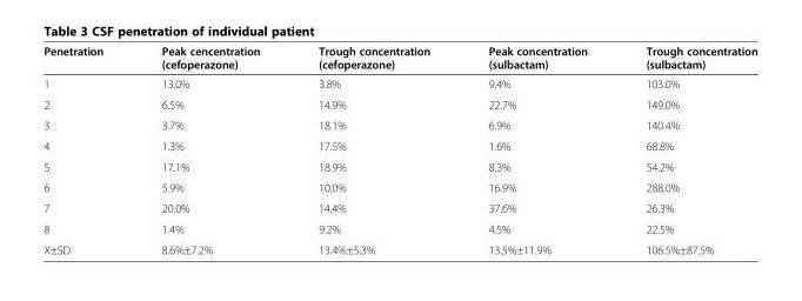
<table><thead><tr><td>Penetration</td><td>Peak cencentration (cefoperazone)</td><td>Trough concentration (cefoperazone)</td><td>Peak concentration (sulbactam)</td><td>Trough concentration (sulbactam)</td></tr></thead><tbody><tr><td>1</td><td>13.0%</td><td>3.8%</td><td>9.4%</td><td>103.0%</td></tr><tr><td>2</td><td>6.5%</td><td>14.9%</td><td>22.7%</td><td>149.0%</td></tr><tr><td>3</td><td>3.7%</td><td>18.1%</td><td>6.9%</td><td>140.4%</td></tr><tr><td>4</td><td>1.3%</td><td>17.5%</td><td>1.6%</td><td>68.8%</td></tr><tr><td>5</td><td>17.1%</td><td>18.9%</td><td>8.3%</td><td>54.2%</td></tr><tr><td>6</td><td>5.9%</td><td>10.0%</td><td>16.9%</td><td>288.0%</td></tr><tr><td>7</td><td>20.0%</td><td>14.4%</td><td>37.6%</td><td>26.3%</td></tr><tr><td>8</td><td>1.4%</td><td>9.2%</td><td>4.5%</td><td>22.5%</td></tr><tr><td>X±SD</td><td>8.6%±7.2%</td><td>13.4%±5.3%</td><td>13.5%±11.9%</td><td>106.5%±87.5%</td></tr></tbody></table>